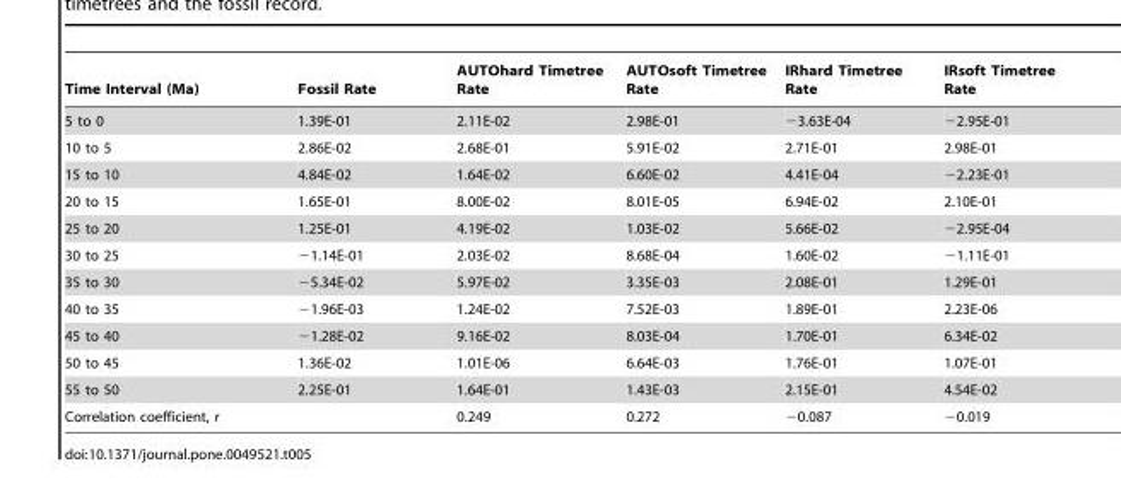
<table><thead><tr><td>Time Interval (Ma)</td><td>Fossil Rate</td><td>AUTOhard Timetree Rate</td><td>AUTOsoft Timetree Rate</td><td>IRhard Timetree Rate</td><td>IRsoft Timetree Rate</td></tr></thead><tbody><tr><td>5 to 0</td><td>1.39E-01</td><td>2.11E-02</td><td>2.98E-01</td><td>−3.63E-04</td><td>−2.95E-01</td></tr><tr><td>10 to 5</td><td>2.86E-02</td><td>2.68E-01</td><td>5.91E-02</td><td>2.71E-01</td><td>2.98E-01</td></tr><tr><td>15 to 10</td><td>4.84E-02</td><td>1.64E-02</td><td>6.60E-02</td><td>4.41E-04</td><td>−2.23E-01</td></tr><tr><td>20 to 15</td><td>1.65E-01</td><td>8.00E-02</td><td>8.01E-05</td><td>6.94E-02</td><td>2.10E-01</td></tr><tr><td>25 to 20</td><td>1.25E-01</td><td>4.19E-02</td><td>1.03E-02</td><td>5.66E-02</td><td>−2.95E-04</td></tr><tr><td>30 to 25</td><td>−1.14E-01</td><td>2.03E-02</td><td>8.68E-04</td><td>1.60E-02</td><td>−1.11E-01</td></tr><tr><td>35 to 30</td><td>−5.34E-02</td><td>5.97E-02</td><td>3.35E-03</td><td>2.08E-01</td><td>1.29E-01</td></tr><tr><td>40 to 35</td><td>−1.96E-03</td><td>1.24E-02</td><td>7.52E-03</td><td>1.89E-01</td><td>2.23E-06</td></tr><tr><td>45 to 40</td><td>−1.28E-02</td><td>9.16E-02</td><td>8.03E-04</td><td>1.70E-01</td><td>6.34E-02</td></tr><tr><td>50 to 45</td><td>1.36E-02</td><td>1.01E-06</td><td>6.64E-03</td><td>1.76E-01</td><td>1.07E-01</td></tr><tr><td>55 to 50</td><td>2.25E-01</td><td>1.64E-01</td><td>1.43E-03</td><td>2.15E-01</td><td>4.54E-02</td></tr><tr><td>Correlation coefficient, r</td><td></td><td>0.249</td><td>0.272</td><td>−0.087</td><td>−0.019</td></tr></tbody></table>